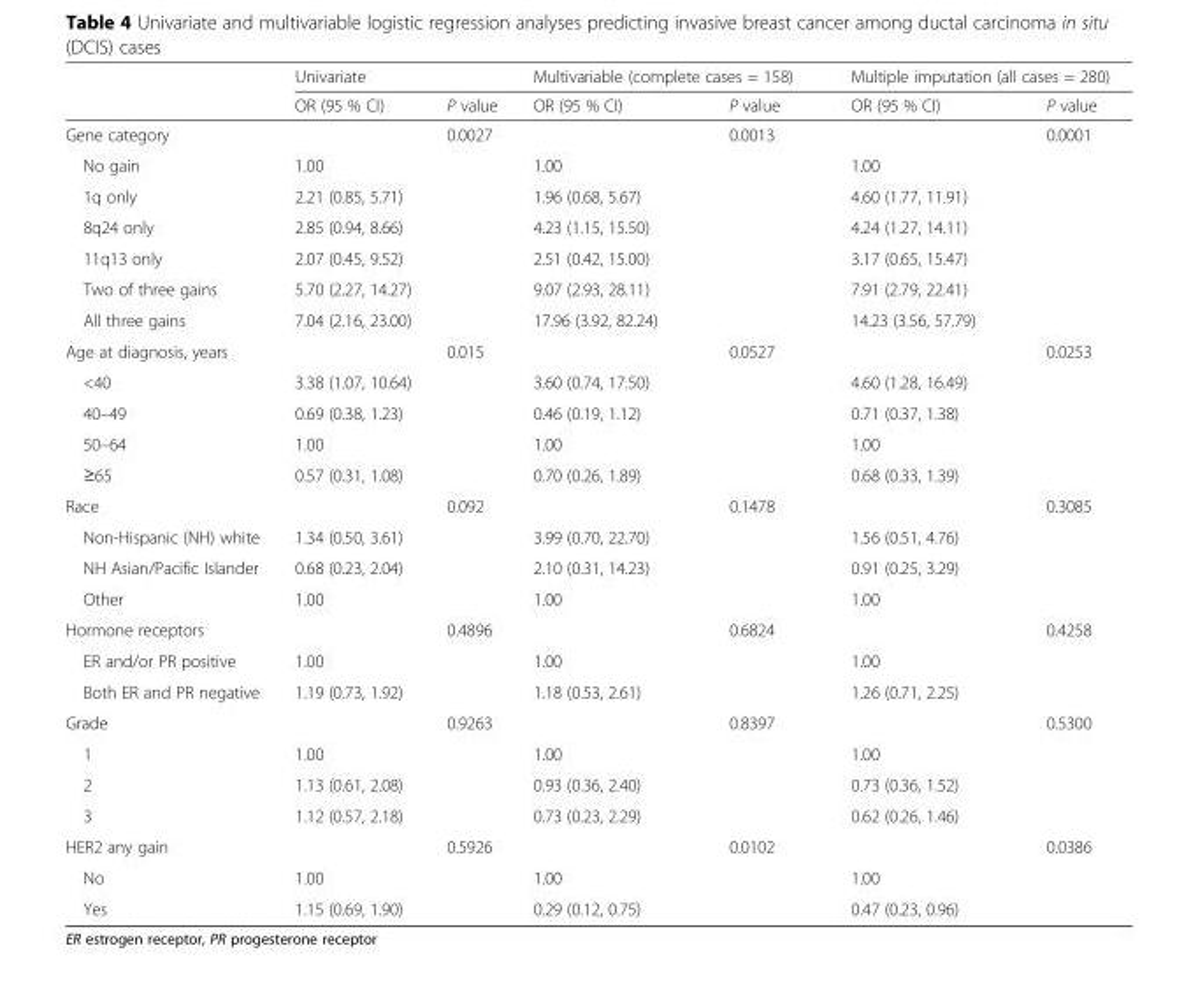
<table><thead><tr><td rowspan="2"></td><td colspan="2">Univariate</td><td colspan="2">Multivariable (complete cases = 158)</td><td colspan="2">Multiple imputation (all cases = 280)</td></tr><tr><td>OR (95 % CI)</td><td>P value</td><td>OR (95 % CI)</td><td>P value</td><td>OR (95 % CI)</td><td>P value</td></tr></thead><tbody><tr><td>Gene category</td><td></td><td>0.0027</td><td></td><td>0.0013</td><td></td><td>0.0001</td></tr><tr><td>No gain</td><td>1.00</td><td></td><td>1.00</td><td></td><td>1.00</td><td></td></tr><tr><td>1q only</td><td>2.21 (0.85, 5.71)</td><td></td><td>1.96 (0.68, 5.67)</td><td></td><td>4.60 (1.77, 11.91)</td><td></td></tr><tr><td>8q24 only</td><td>2.85 (0.94, 8.66)</td><td></td><td>4.23 (1.15, 15.50)</td><td></td><td>4.24 (1.27, 14.11)</td><td></td></tr><tr><td>11q13 only</td><td>2.07 (0.45, 9.52)</td><td></td><td>2.51 (0.42, 15.00)</td><td></td><td>3.17 (0.65, 15.47)</td><td></td></tr><tr><td>Two of three gains</td><td>5.70 (2.27, 14.27)</td><td></td><td>9.07 (2.93, 28.11)</td><td></td><td>7.91 (2.79, 22.41)</td><td></td></tr><tr><td>All three gains</td><td>7.04 (2.16, 23.00)</td><td></td><td>17.96 (3.92, 82.24)</td><td></td><td>14.23 (3.56, 57.79)</td><td></td></tr><tr><td>Age at diagnosis, years</td><td></td><td>0.015</td><td></td><td>0.0527</td><td></td><td>0.0253</td></tr><tr><td>&lt;40</td><td>3.38 (1.07, 10.64)</td><td></td><td>3.60 (0.74, 17.50)</td><td></td><td>4.60 (1.28, 16.49)</td><td></td></tr><tr><td>40–49</td><td>0.69 (0.38, 1.23)</td><td></td><td>0.46 (0.19, 1.12)</td><td></td><td>0.71 (0.37, 1.38)</td><td></td></tr><tr><td>50–64</td><td>1.00</td><td></td><td>1.00</td><td></td><td>1.00</td><td></td></tr><tr><td>≥65</td><td>0.57 (0.31, 1.08)</td><td></td><td>0.70 (0.26, 1.89)</td><td></td><td>0.68 (0.33, 1.39)</td><td></td></tr><tr><td>Race</td><td></td><td>0.092</td><td></td><td>0.1478</td><td></td><td>0.3085</td></tr><tr><td>Non-Hispanic (NH) white</td><td>1.34 (0.50, 3.61)</td><td></td><td>3.99 (0.70, 22.70)</td><td></td><td>1.56 (0.51, 4.76)</td><td></td></tr><tr><td>NH Asian/Pacific Islander</td><td>0.68 (0.23, 2.04)</td><td></td><td>2.10 (0.31, 14.23)</td><td></td><td>0.91 (0.25, 3.29)</td><td></td></tr><tr><td>Other</td><td>1.00</td><td></td><td>1.00</td><td></td><td>1.00</td><td></td></tr><tr><td>Hormone receptors</td><td></td><td>0.4896</td><td></td><td>0.6824</td><td></td><td>0.4258</td></tr><tr><td>ER and/or PR positive</td><td>1.00</td><td></td><td>1.00</td><td></td><td>1.00</td><td></td></tr><tr><td>Both ER and PR negative</td><td>1.19 (0.73, 1.92)</td><td></td><td>1.18 (0.53, 2.61)</td><td></td><td>1.26 (0.71, 2.25)</td><td></td></tr><tr><td>Grade</td><td></td><td>0.9263</td><td></td><td>0.8397</td><td></td><td>0.5300</td></tr><tr><td>1</td><td>1.00</td><td></td><td>1.00</td><td></td><td>1.00</td><td></td></tr><tr><td>2</td><td>1.13 (0.61, 2.08)</td><td></td><td>0.93 (0.36, 2.40)</td><td></td><td>0.73 (0.36, 1.52)</td><td></td></tr><tr><td>3</td><td>1.12 (0.57, 2.18)</td><td></td><td>0.73 (0.23, 2.29)</td><td></td><td>0.62 (0.26, 1.46)</td><td></td></tr><tr><td>HER2 any gain</td><td></td><td>0.5926</td><td></td><td>0.0102</td><td></td><td>0.0386</td></tr><tr><td>No</td><td>1.00</td><td></td><td>1.00</td><td></td><td>1.00</td><td></td></tr><tr><td>Yes</td><td>1.15 (0.69, 1.90)</td><td></td><td>0.29 (0.12, 0.75)</td><td></td><td>0.47 (0.23, 0.96)</td><td></td></tr></tbody></table>